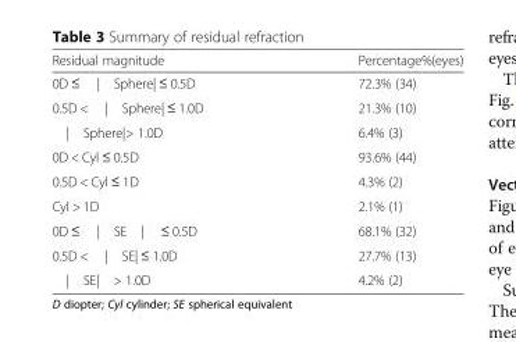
<table><thead><tr><td>Residual magnitude</td><td>Percentage%(eyes)</td></tr></thead><tbody><tr><td>0D ≤ | Sphere| ≤ 0.5D</td><td>72.3% (34)</td></tr><tr><td>0.5D &lt; | Sphere| ≤ 1.0D</td><td>21.3% (10)</td></tr><tr><td>| Sphere|&gt; 1.0D</td><td>6.4% (3)</td></tr><tr><td>0D &lt; Cyl ≤ 0.5D</td><td>93.6% (44)</td></tr><tr><td>0.5D &lt; Cyl ≤ 1D</td><td>4.3% (2)</td></tr><tr><td>Cyl &gt; 1D</td><td>2.1% (1)</td></tr><tr><td>0D ≤ | SE | ≤ 0.5D</td><td>68.1% (32)</td></tr><tr><td>0.5D &lt; | SE| ≤ 1.0D</td><td>27.7% (13)</td></tr><tr><td>| SE| &gt; 1.0D</td><td>4.2% (2)</td></tr></tbody></table>